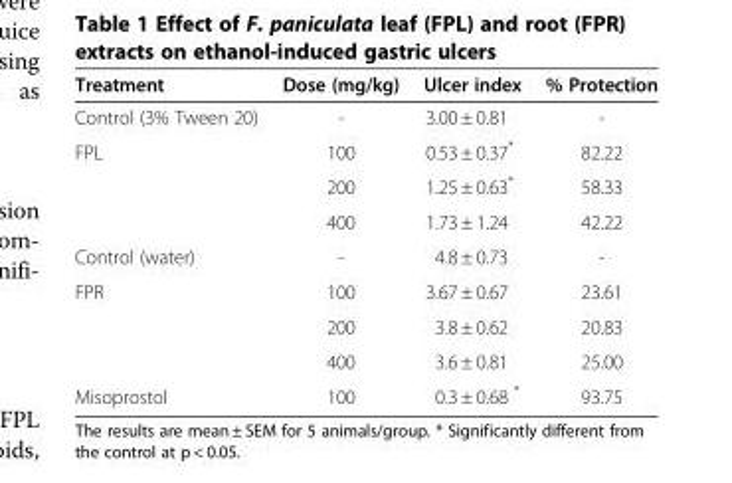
<table><thead><tr><td>Treatment</td><td>Dose (mg/kg)</td><td>Ulcer index</td><td>% Protection</td></tr></thead><tbody><tr><td>Control (3% Tween 20)</td><td>-</td><td>3.00 ± 0.81</td><td>-</td></tr><tr><td rowspan="3">FPL</td><td>100</td><td>0.53 ± 0.37*</td><td>82.22</td></tr><tr><td>200</td><td>1.25 ± 0.63*</td><td>58.33</td></tr><tr><td>400</td><td>1.73 ± 1.24</td><td>42.22</td></tr><tr><td>Control (water)</td><td>-</td><td>4.8 ± 0.73</td><td>-</td></tr><tr><td rowspan="3">FPR</td><td>100</td><td>3.67 ± 0.67</td><td>23.61</td></tr><tr><td>200</td><td>3.8 ± 0.62</td><td>20.83</td></tr><tr><td>400</td><td>3.6 ± 0.81</td><td>25.00</td></tr><tr><td>Misoprostol</td><td>100</td><td>0.3 ± 0.68 *</td><td>93.75</td></tr></tbody></table>